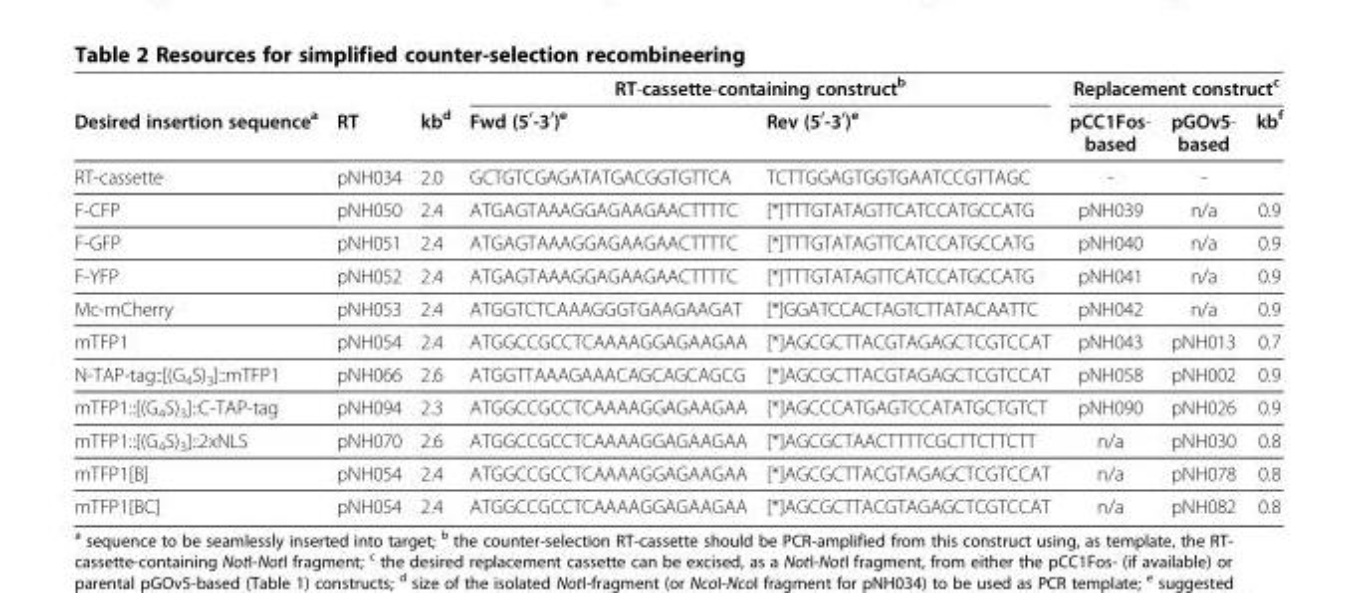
<table><thead><tr><td rowspan="2">Desired insertion sequence<sup>a</sup></td><td rowspan="2">RT</td><td rowspan="2">kb<sup>d</sup></td><td colspan="2">RT-cassette-containing construct<sup>b</sup></td><td colspan="3">Replacement construct<sup>c</sup></td></tr><tr><td>Fwd (5<sup>′</sup>-3<sup>′</sup>)<sup>e</sup></td><td>Rev (5<sup>′</sup>-3<sup>′</sup>)<sup>e</sup></td><td>pCC1Fos- based</td><td>pGOv5- based</td><td>kb<sup>f</sup></td></tr></thead><tbody><tr><td>RT-cassette</td><td>pNH034</td><td>2.0</td><td>GCTGTCGAGATATGACGGTGTTCA</td><td>TCTTGGAGTGGTGAATCCGTTAGC</td><td>-</td><td>-</td><td></td></tr><tr><td>F-CFP</td><td>pNH050</td><td>2.4</td><td>ATGAGTAAAGGAGAAGAACTTTTC</td><td>[*]TTTGTATAGTTCATCCATGCCATG</td><td>pNH039</td><td>n/a</td><td>0.9</td></tr><tr><td>F-GFP</td><td>pNH051</td><td>2.4</td><td>ATGAGTAAAGGAGAAGAACTTTTC</td><td>[*]TTTGTATAGTTCATCCATGCCATG</td><td>pNH040</td><td>n/a</td><td>0.9</td></tr><tr><td>F-YFP</td><td>pNH052</td><td>2.4</td><td>ATGAGTAAAGGAGAAGAACTTTTC</td><td>[*]TTTGTATAGTTCATCCATGCCATG</td><td>pNH041</td><td>n/a</td><td>0.9</td></tr><tr><td>Mc-mCherry</td><td>pNH053</td><td>2.4</td><td>ATGGTCTCAAAGGGTGAAGAAGAT</td><td>[*]GGATCCACTAGTCTTATACAATTC</td><td>pNH042</td><td>n/a</td><td>0.9</td></tr><tr><td>mTFP1</td><td>pNH054</td><td>2.4</td><td>ATGGCCGCCTCAAAAGGAGAAGAA</td><td>[*]AGCGCTTACGTAGAGCTCGTCCAT</td><td>pNH043</td><td>pNH013</td><td>0.7</td></tr><tr><td>N-TAP-tag::[(G<sub>4</sub>S)<sub>3</sub>]::mTFP1</td><td>pNH066</td><td>2.6</td><td>ATGGTTAAAGAAACAGCAGCAGCG</td><td>[*]AGCGCTTACGTAGAGCTCGTCCAT</td><td>pNH058</td><td>pNH002</td><td>0.9</td></tr><tr><td>mTFP1::[(G<sub>4</sub>S)<sub>3</sub>]::C-TAP-tag</td><td>pNH094</td><td>2.3</td><td>ATGGCCGCCTCAAAAGGAGAAGAA</td><td>[*]AGCCCATGAGTCCATATGCTGTCT</td><td>pNH090</td><td>pNH026</td><td>0.9</td></tr><tr><td>mTFP1::[(G<sub>4</sub>S)<sub>3</sub>]::2xNLS</td><td>pNH070</td><td>2.6</td><td>ATGGCCGCCTCAAAAGGAGAAGAA</td><td>[*]AGCGCTAACTTTTCGCTTCTTCTT</td><td>n/a</td><td>pNH030</td><td>0.8</td></tr><tr><td>mTFP1[B]</td><td>pNH054</td><td>2.4</td><td>ATGGCCGCCTCAAAAGGAGAAGAA</td><td>[*]AGCGCTTACGTAGAGCTCGTCCAT</td><td>n/a</td><td>pNH078</td><td>0.8</td></tr><tr><td>mTFP1[BC]</td><td>pNH054</td><td>2.4</td><td>ATGGCCGCCTCAAAAGGAGAAGAA</td><td>[*]AGCGCTTACGTAGAGCTCGTCCAT</td><td>n/a</td><td>pNH082</td><td>0.8</td></tr></tbody></table>